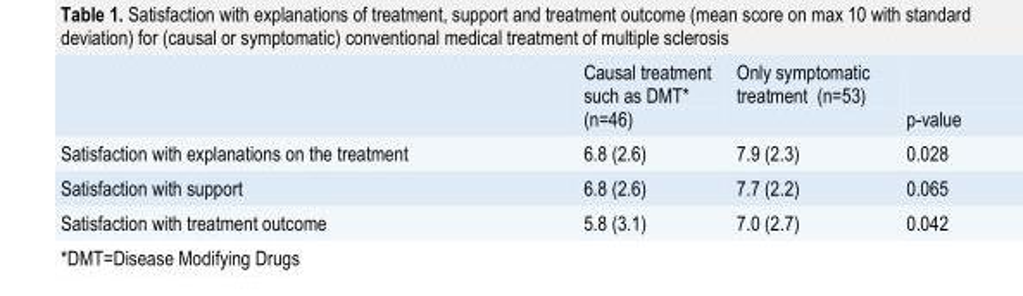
<table><thead><tr><td></td><td>Causal treatment such as DMT* (n=46)</td><td>Only symptomatic treatment (n=53)</td><td>p-value</td></tr></thead><tbody><tr><td>Satisfaction with explanations on the treatment</td><td>6.8 (2.6)</td><td>7.9 (2.3)</td><td>0.028</td></tr><tr><td>Satisfaction with support</td><td>6.8 (2.6)</td><td>7.7 (2.2)</td><td>0.065</td></tr><tr><td>Satisfaction with treatment outcome</td><td>5.8 (3.1)</td><td>7.0 (2.7)</td><td>0.042</td></tr></tbody></table>